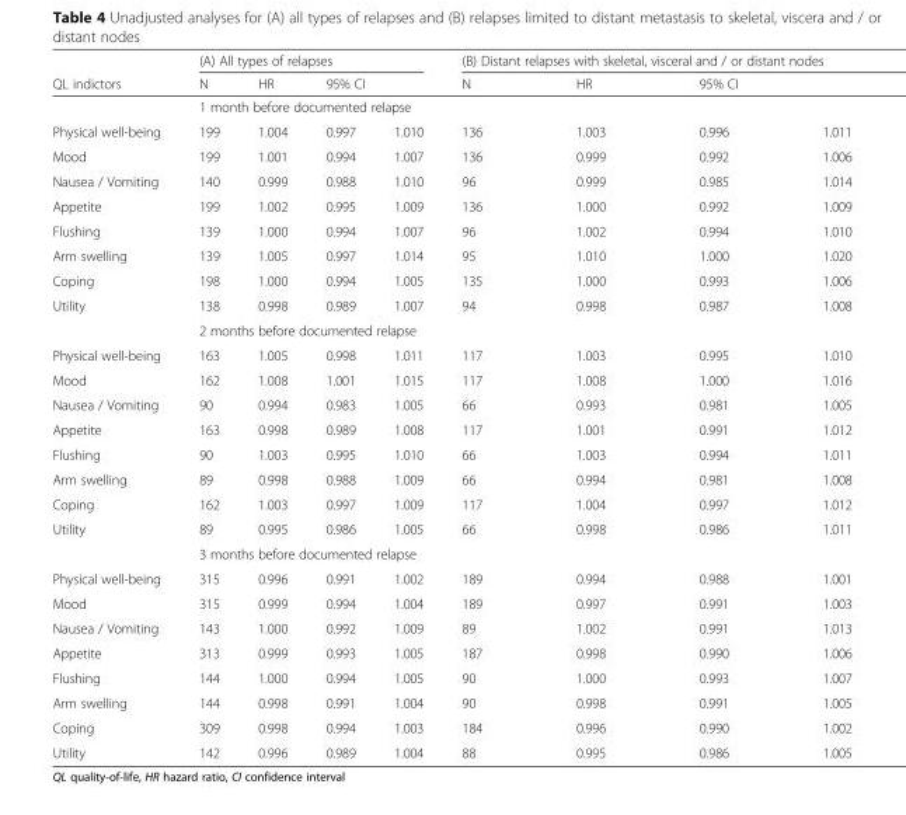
<table><thead><tr><td rowspan="4">QL indictors Physical well-being</td><td colspan="4">(A) All types of relapses</td><td colspan="4">(B) Distant relapses with skeletal, visceral and / or distant nodes</td></tr><tr><td>N</td><td>HR</td><td colspan="2">95% CI</td><td>N</td><td>HR</td><td colspan="2">95% CI</td></tr><tr><td colspan="8">1 month before documented relapse</td></tr><tr><td>199</td><td>1.004</td><td>0.997</td><td>1.010</td><td>136</td><td>1.003</td><td>0.996</td><td>1.011</td></tr></thead><tbody><tr><td>Mood</td><td>199</td><td>1.001</td><td>0.994</td><td>1.007</td><td>136</td><td>0.999</td><td>0.992</td><td>1.006</td></tr><tr><td>Nausea / Vomiting</td><td>140</td><td>0.999</td><td>0.988</td><td>1.010</td><td>96</td><td>0.999</td><td>0.985</td><td>1.014</td></tr><tr><td>Appetite</td><td>199</td><td>1.002</td><td>0.995</td><td>1.009</td><td>136</td><td>1.000</td><td>0.992</td><td>1.009</td></tr><tr><td>Flushing</td><td>139</td><td>1.000</td><td>0.994</td><td>1.007</td><td>96</td><td>1.002</td><td>0.994</td><td>1.010</td></tr><tr><td>Arm swelling</td><td>139</td><td>1.005</td><td>0.997</td><td>1.014</td><td>95</td><td>1.010</td><td>1.000</td><td>1.020</td></tr><tr><td>Coping</td><td>198</td><td>1.000</td><td>0.994</td><td>1.005</td><td>135</td><td>1.000</td><td>0.993</td><td>1.006</td></tr><tr><td rowspan="2">Utility</td><td>138</td><td>0.998</td><td>0.989</td><td>1.007</td><td>94</td><td>0.998</td><td>0.987</td><td>1.008</td></tr><tr><td colspan="8">2 months before documented relapse</td></tr><tr><td>Physical well-being</td><td>163</td><td>1.005</td><td>0.998</td><td>1.011</td><td>117</td><td>1.003</td><td>0.995</td><td>1.010</td></tr><tr><td>Mood</td><td>162</td><td>1.008</td><td>1.001</td><td>1.015</td><td>117</td><td>1.008</td><td>1.000</td><td>1.016</td></tr><tr><td>Nausea / Vomiting</td><td>90</td><td>0.994</td><td>0.983</td><td>1.005</td><td>66</td><td>0.993</td><td>0.981</td><td>1.005</td></tr><tr><td>Appetite</td><td>163</td><td>0.998</td><td>0.989</td><td>1.008</td><td>117</td><td>1.001</td><td>0.991</td><td>1.012</td></tr><tr><td>Flushing</td><td>90</td><td>1.003</td><td>0.995</td><td>1.010</td><td>66</td><td>1.003</td><td>0.994</td><td>1.011</td></tr><tr><td>Arm swelling</td><td>89</td><td>0.998</td><td>0.988</td><td>1.009</td><td>66</td><td>0.994</td><td>0.981</td><td>1.008</td></tr><tr><td>Coping</td><td>162</td><td>1.003</td><td>0.997</td><td>1.009</td><td>117</td><td>1.004</td><td>0.997</td><td>1.012</td></tr><tr><td rowspan="2">Utility</td><td>89</td><td>0.995</td><td>0.986</td><td>1.005</td><td>66</td><td>0.998</td><td>0.986</td><td>1.011</td></tr><tr><td colspan="8">3 months before documented relapse</td></tr><tr><td>Physical well-being</td><td>315</td><td>0.996</td><td>0.991</td><td>1.002</td><td>189</td><td>0.994</td><td>0.988</td><td>1.001</td></tr><tr><td>Mood</td><td>315</td><td>0.999</td><td>0.994</td><td>1.004</td><td>189</td><td>0.997</td><td>0.991</td><td>1.003</td></tr><tr><td>Nausea / Vomiting</td><td>143</td><td>1.000</td><td>0.992</td><td>1.009</td><td>89</td><td>1.002</td><td>0.991</td><td>1.013</td></tr><tr><td>Appetite</td><td>313</td><td>0.999</td><td>0.993</td><td>1.005</td><td>187</td><td>0.998</td><td>0.990</td><td>1.006</td></tr><tr><td>Flushing</td><td>144</td><td>1.000</td><td>0.994</td><td>1.005</td><td>90</td><td>1.000</td><td>0.993</td><td>1.007</td></tr><tr><td>Arm swelling</td><td>144</td><td>0.998</td><td>0.991</td><td>1.004</td><td>90</td><td>0.998</td><td>0.991</td><td>1.005</td></tr><tr><td>Coping</td><td>309</td><td>0.998</td><td>0.994</td><td>1.003</td><td>184</td><td>0.996</td><td>0.990</td><td>1.002</td></tr><tr><td>Utility</td><td>142</td><td>0.996</td><td>0.989</td><td>1.004</td><td>88</td><td>0.995</td><td>0.986</td><td>1.005</td></tr></tbody></table>